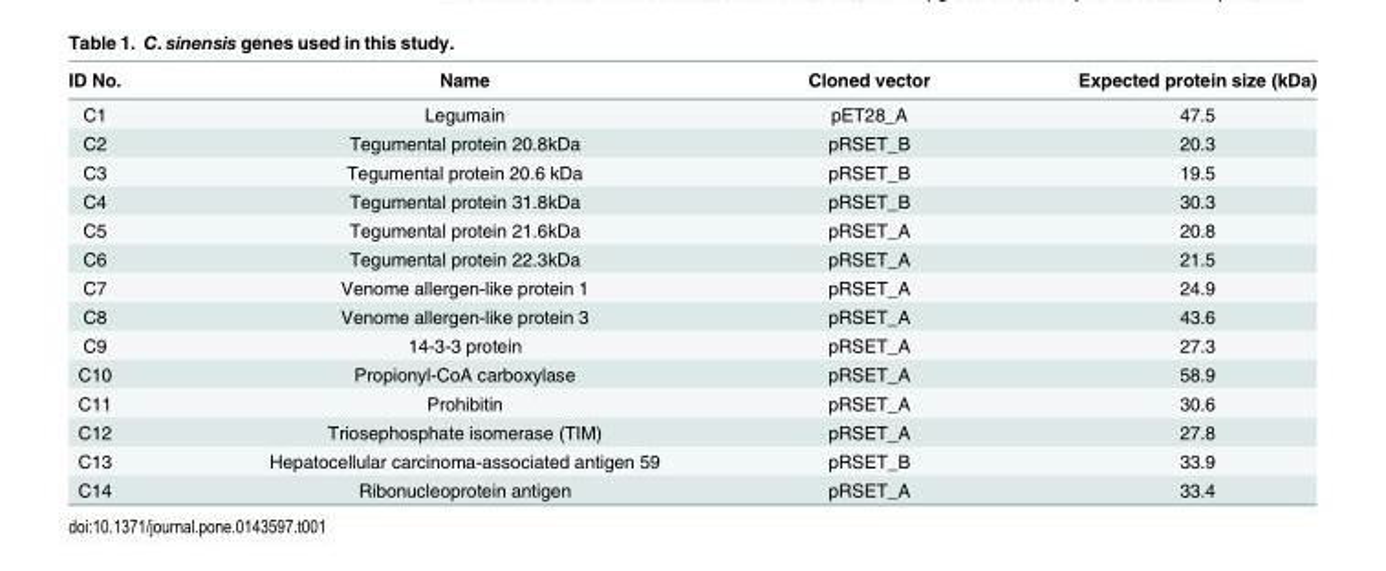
<table><thead><tr><td>ID No.</td><td>Name</td><td>Cloned vector</td><td>Expected protein size (kDa)</td></tr></thead><tbody><tr><td>C1</td><td>Legumain</td><td>pET28_A</td><td>47.5</td></tr><tr><td>C2</td><td>Tegumental protein 20.8kDa</td><td>pRSET_B</td><td>20.3</td></tr><tr><td>C3</td><td>Tegumental protein 20.6 kDa</td><td>pRSET_B</td><td>19.5</td></tr><tr><td>C4</td><td>Tegumental protein 31.8kDa</td><td>pRSET_B</td><td>30.3</td></tr><tr><td>C5</td><td>Tegumental protein 21.6kDa</td><td>pRSET_A</td><td>20.8</td></tr><tr><td>C6</td><td>Tegumental protein 22.3kDa</td><td>pRSET_A</td><td>21.5</td></tr><tr><td>C7</td><td>Venome allergen-like protein 1</td><td>pRSET_A</td><td>24.9</td></tr><tr><td>C8</td><td>Venome allergen-like protein 3</td><td>pRSET_A</td><td>43.6</td></tr><tr><td>C9</td><td>14-3-3 protein</td><td>pRSET_A</td><td>27.3</td></tr><tr><td>C10</td><td>Propionyl-CoA carboxylase</td><td>pRSET_A</td><td>58.9</td></tr><tr><td>C11</td><td>Prohibitin</td><td>pRSET_A</td><td>30.6</td></tr><tr><td>C12</td><td>Triosephosphate isomerase (TIM)</td><td>pRSET_A</td><td>27.8</td></tr><tr><td>C13</td><td>Hepatocellular carcinoma-associated antigen 59</td><td>pRSET_B</td><td>33.9</td></tr><tr><td>C14</td><td>Ribonucleoprotein antigen</td><td>pRSET_A</td><td>33.4</td></tr></tbody></table>